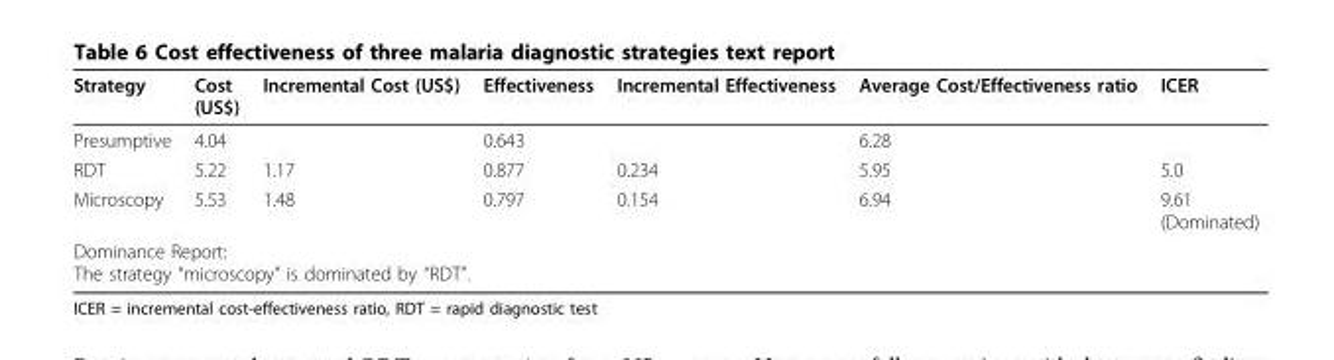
<table><thead><tr><td>Strategy</td><td>Cost (US$)</td><td>Incremental Cost (US$)</td><td>Effectiveness</td><td>Incremental Effectiveness</td><td>Average Cost/Effectiveness ratio</td><td>ICER</td></tr></thead><tbody><tr><td>Presumptive</td><td>4.04</td><td></td><td>0.643</td><td></td><td>6.28</td><td></td></tr><tr><td>RDT</td><td>5.22</td><td>1.17</td><td>0.877</td><td>0.234</td><td>5.95</td><td>5.0</td></tr><tr><td>Microscopy</td><td>5.53</td><td>1.48</td><td>0.797</td><td>0.154</td><td>6.94</td><td>9.61 (Dominated)</td></tr><tr><td colspan="7">Dominance Report: The strategy “microscopy” is dominated by “RDT”.</td></tr></tbody></table>